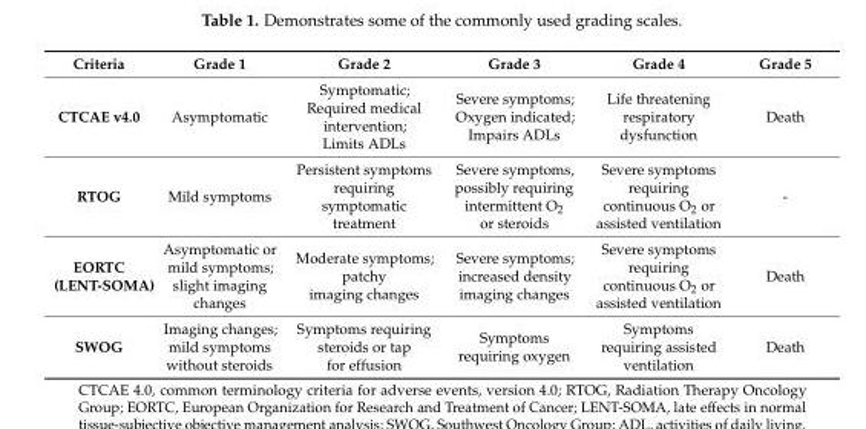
<table><thead><tr><td>Criteria</td><td>Grade 1</td><td>Grade 2</td><td>Grade 3</td><td>Grade 4</td><td>Grade 5</td></tr></thead><tbody><tr><td>CTCAE v4.0</td><td>Asymptomatic</td><td>Symptomatic; Required medical intervention; Limits ADLs</td><td>Severe symptoms; Oxygen indicated; Impairs ADLs</td><td>Life threatening respiratory dysfunction</td><td>Death</td></tr><tr><td>RTOG</td><td>Mild symptoms</td><td>Persistent symptoms requiring symptomatic treatment</td><td>Severe symptoms, possibly requiring intermittent O<sub>2</sub> or steroids</td><td>Severe symptoms requiring continuous O<sub>2</sub> or assisted ventilation</td><td>-</td></tr><tr><td>EORTC (LENT-SOMA)</td><td>Asymptomatic or mild symptoms; slight imaging changes</td><td>Moderate symptoms; patchy imaging changes</td><td>Severe symptoms; increased density imaging changes</td><td>Severe symptoms requiring continuous O<sub>2</sub> or assisted ventilation</td><td>Death</td></tr><tr><td>SWOG</td><td>Imaging changes; mild symptoms without steroids</td><td>Symptoms requiring steroids or tap for effusion</td><td>Symptoms requiring oxygen</td><td>Symptoms requiring assisted ventilation</td><td>Death</td></tr></tbody></table>